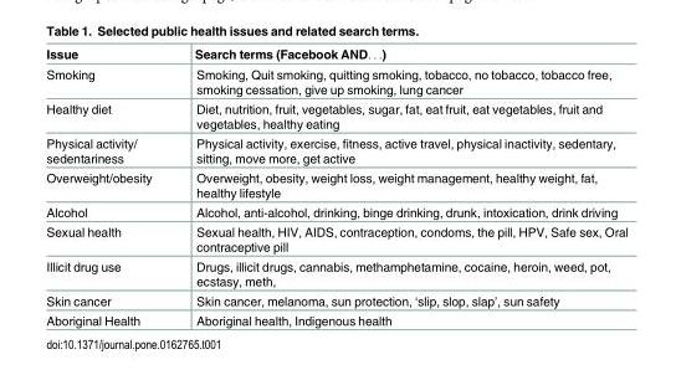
<table><thead><tr><td>Issue</td><td>Search terms (Facebook AND. . .)</td></tr></thead><tbody><tr><td>Smoking</td><td>Smoking, Quit smoking, quitting smoking, tobacco, no tobacco, tobacco free, smoking cessation, give up smoking, lung cancer</td></tr><tr><td>Healthy diet</td><td>Diet, nutrition, fruit, vegetables, sugar, fat, eat fruit, eat vegetables, fruit and vegetables, healthy eating</td></tr><tr><td>Physical activity/ sedentariness</td><td>Physical activity, exercise, fitness, active travel, physical inactivity, sedentary, sitting, move more, get active</td></tr><tr><td>Overweight/obesity</td><td>Overweight, obesity, weight loss, weight management, healthy weight, fat, healthy lifestyle</td></tr><tr><td>Alcohol</td><td>Alcohol, anti-alcohol, drinking, binge drinking, drunk, intoxication, drink driving</td></tr><tr><td>Sexual health</td><td>Sexual health, HIV, AIDS, contraception, condoms, the pill, HPV, Safe sex, Oral contraceptive pill</td></tr><tr><td>Illicit drug use</td><td>Drugs, illicit drugs, cannabis, methamphetamine, cocaine, heroin, weed, pot, ecstasy, meth,</td></tr><tr><td>Skin cancer</td><td>Skin cancer, melanoma, sun protection, ‘slip, slop, slap’, sun safety</td></tr><tr><td>Aboriginal Health</td><td>Aboriginal health, Indigenous health</td></tr></tbody></table>